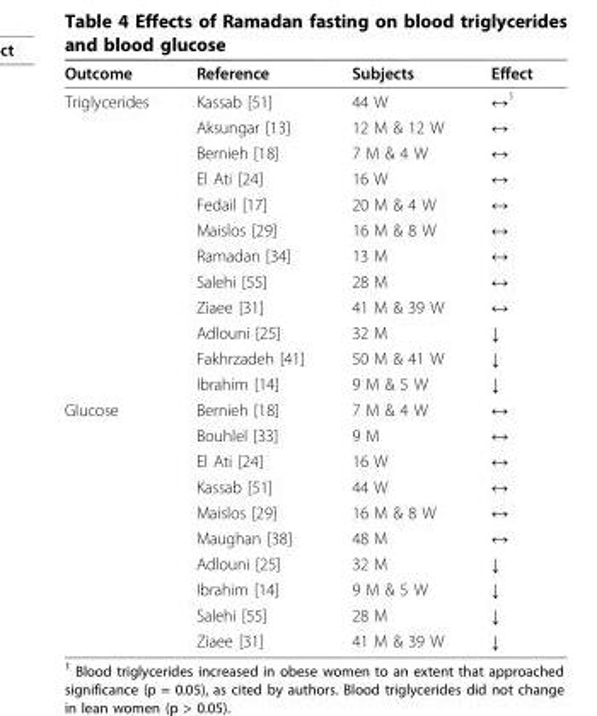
<table><thead><tr><td>Outcome</td><td>Reference</td><td>Subjects</td><td>Effect</td></tr></thead><tbody><tr><td rowspan="12">Triglycerides</td><td>Kassab [51]</td><td>44 W</td><td>↔<sup>1</sup></td></tr><tr><td>Aksungar [13]</td><td>12 M &amp; 12 W</td><td>↔</td></tr><tr><td>Bernieh [18]</td><td>7 M &amp; 4 W</td><td>↔</td></tr><tr><td>El Ati [24]</td><td>16 W</td><td>↔</td></tr><tr><td>Fedail [17]</td><td>20 M &amp; 4 W</td><td>↔</td></tr><tr><td>Maislos [29]</td><td>16 M &amp; 8 W</td><td>↔</td></tr><tr><td>Ramadan [34]</td><td>13 M</td><td>↔</td></tr><tr><td>Salehi [55]</td><td>28 M</td><td>↔</td></tr><tr><td>Ziaee [31]</td><td>41 M &amp; 39 W</td><td>↔</td></tr><tr><td>Adlouni [25]</td><td>32 M</td><td>↓</td></tr><tr><td>Fakhrzadeh [41]</td><td>50 M &amp; 41 W</td><td>↓</td></tr><tr><td>Ibrahim [14]</td><td>9 M &amp; 5 W</td><td>↓</td></tr><tr><td rowspan="10">Glucose</td><td>Bernieh [18]</td><td>7 M &amp; 4 W</td><td>↔</td></tr><tr><td>Bouhlel [33]</td><td>9 M</td><td>↔</td></tr><tr><td>El Ati [24]</td><td>16 W</td><td>↔</td></tr><tr><td>Kassab [51]</td><td>44 W</td><td>↔</td></tr><tr><td>Maislos [29]</td><td>16 M &amp; 8 W</td><td>↔</td></tr><tr><td>Maughan [38]</td><td>48 M</td><td>↔</td></tr><tr><td>Adlouni [25]</td><td>32 M</td><td>↓</td></tr><tr><td>Ibrahim [14]</td><td>9 M &amp; 5 W</td><td>↓</td></tr><tr><td>Salehi [55]</td><td>28 M</td><td>↓</td></tr><tr><td>Ziaee [31]</td><td>41 M &amp; 39 W</td><td>↓</td></tr></tbody></table>